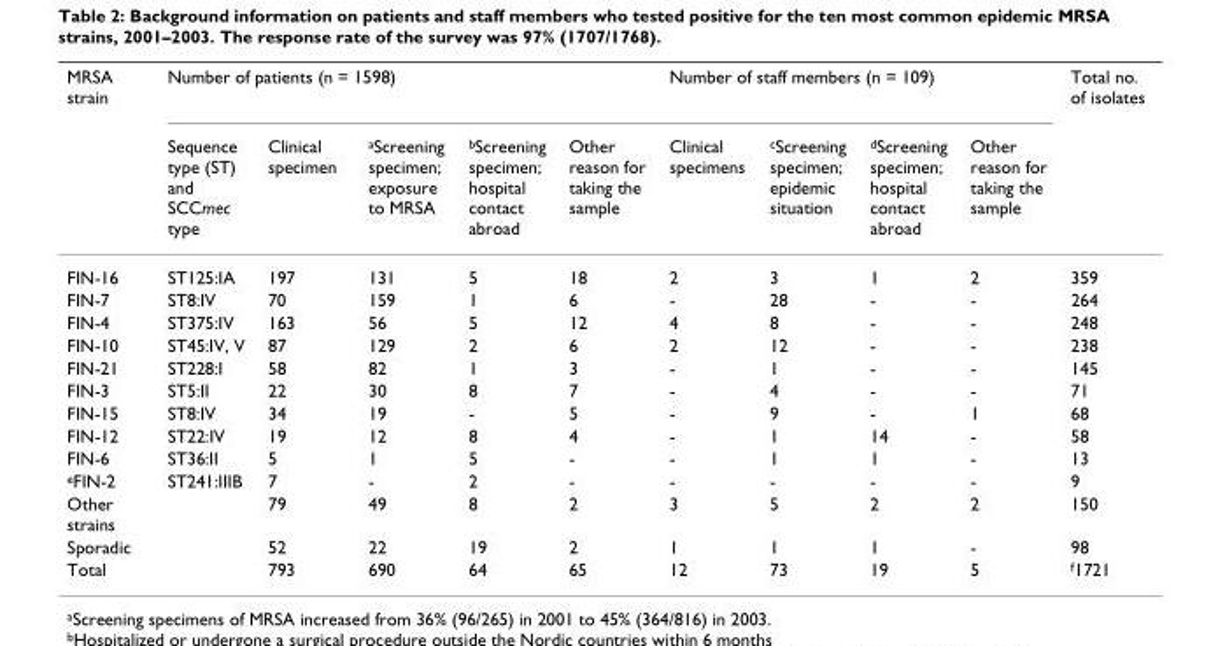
<table><thead><tr><td rowspan="2">MRSA strain</td><td colspan="5">Number of patients (n = 1598)</td><td colspan="4">Number of staff members (n = 109)</td><td rowspan="2">Total no. of isolates</td></tr><tr><td>Sequence type (ST) and SCCmec type</td><td>Clinical specimen</td><td><sup>a</sup>Screening specimen; exposure to MRSA</td><td><sup>b</sup>Screening specimen; hospital contact abroad</td><td>Other reason for taking the sample</td><td>Clinical specimens</td><td><sup>c</sup>Screening specimen; epidemic situation</td><td><sup>d</sup>Screening specimen; hospital contact abroad</td><td>Other reason for taking the sample</td></tr></thead><tbody><tr><td>FIN-16</td><td>ST125:IA</td><td>197</td><td>131</td><td>5</td><td>18</td><td>2</td><td>3</td><td>1</td><td>2</td><td>359</td></tr><tr><td>FIN-7</td><td>ST8:IV</td><td>70</td><td>159</td><td>1</td><td>6</td><td>-</td><td>28</td><td>-</td><td>-</td><td>264</td></tr><tr><td>FIN-4</td><td>ST375:IV</td><td>163</td><td>56</td><td>5</td><td>12</td><td>4</td><td>8</td><td>-</td><td>-</td><td>248</td></tr><tr><td>FIN-10</td><td>ST45:IV, V</td><td>87</td><td>129</td><td>2</td><td>6</td><td>2</td><td>12</td><td>-</td><td>-</td><td>238</td></tr><tr><td>FIN-21</td><td>ST228:I</td><td>58</td><td>82</td><td>1</td><td>3</td><td>-</td><td>1</td><td>-</td><td>-</td><td>145</td></tr><tr><td>FIN-3</td><td>ST5:II</td><td>22</td><td>30</td><td>8</td><td>7</td><td>-</td><td>4</td><td>-</td><td>-</td><td>71</td></tr><tr><td>FIN-15</td><td>ST8:IV</td><td>34</td><td>19</td><td>-</td><td>5</td><td>-</td><td>9</td><td>-</td><td>1</td><td>68</td></tr><tr><td>FIN-12</td><td>ST22:IV</td><td>19</td><td>12</td><td>8</td><td>4</td><td>-</td><td>1</td><td>14</td><td>-</td><td>58</td></tr><tr><td>FIN-6</td><td>ST36:II</td><td>5</td><td>1</td><td>5</td><td>-</td><td>-</td><td>1</td><td>1</td><td>-</td><td>13</td></tr><tr><td><sup>e</sup>FIN-2</td><td>ST241:IIIB</td><td>7</td><td>-</td><td>2</td><td>-</td><td>-</td><td>-</td><td>-</td><td>-</td><td>9</td></tr><tr><td>Other strains</td><td></td><td>79</td><td>49</td><td>8</td><td>2</td><td>3</td><td>5</td><td>2</td><td>2</td><td>150</td></tr><tr><td>Sporadic</td><td></td><td>52</td><td>22</td><td>19</td><td>2</td><td>1</td><td>1</td><td>1</td><td>-</td><td>98</td></tr><tr><td>Total</td><td></td><td>793</td><td>690</td><td>64</td><td>65</td><td>12</td><td>73</td><td>19</td><td>5</td><td><sup>f</sup>1721</td></tr></tbody></table>